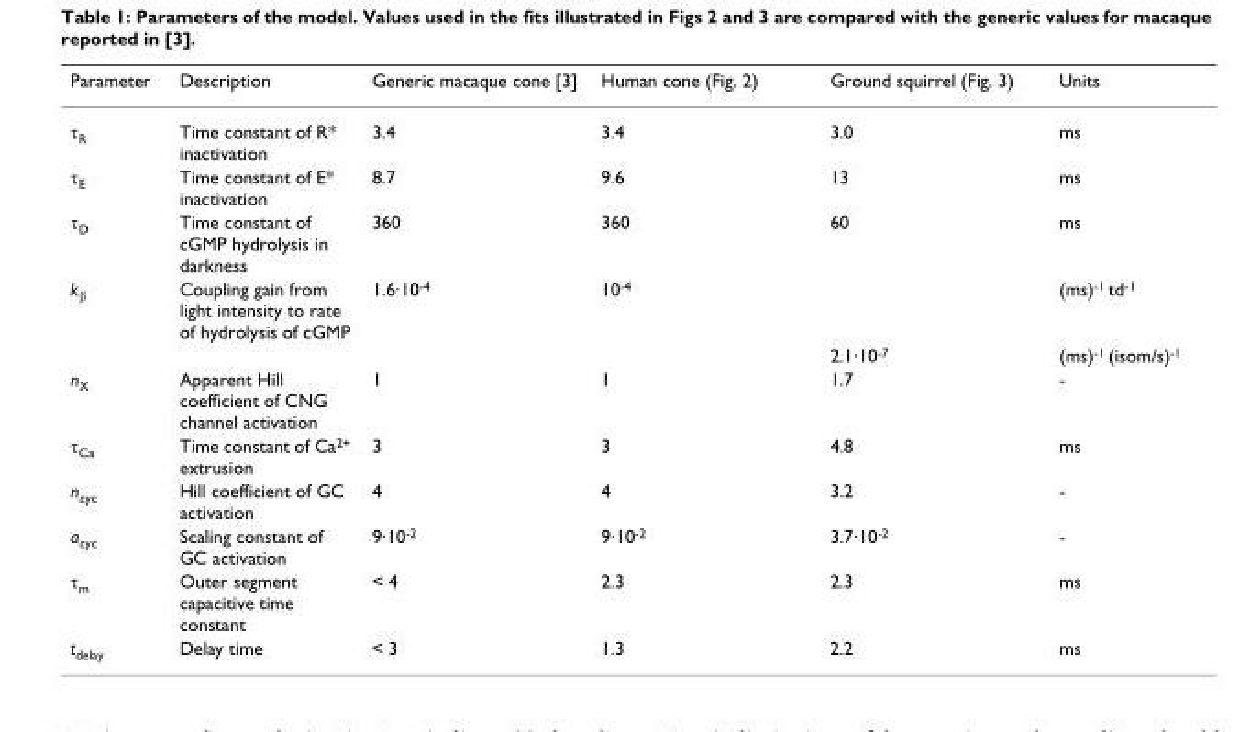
<table><thead><tr><td>Parameter</td><td>Description</td><td>Generic macaque cone [3]</td><td>Human cone (Fig. 2)</td><td>Ground squirrel (Fig. 3)</td><td>Units</td></tr></thead><tbody><tr><td>τR</td><td>Time constant of R* inactivation</td><td>3.4</td><td>3.4</td><td>3.0</td><td>ms</td></tr><tr><td>τE</td><td>Time constant of E* inactivation</td><td>8.7</td><td>9.6</td><td>13</td><td>ms</td></tr><tr><td>τD</td><td>Time constant of cGMP hydrolysis in darkness</td><td>360</td><td>360</td><td>60</td><td>ms</td></tr><tr><td rowspan="2">kβ</td><td>Coupling gain from light intensity to rate of hydrolysis of cGMP</td><td>1.6·10-4</td><td>10-4</td><td></td><td>(ms)-1 td-1</td></tr><tr><td></td><td></td><td></td><td>2.1·10-7</td><td>(ms)-1 (isom/s)-1</td></tr><tr><td>nX</td><td>Apparent Hill coefficient of CNG channel activation</td><td>1</td><td>1</td><td>1.7</td><td>-</td></tr><tr><td>τCa</td><td>Time constant of Ca2+ extrusion</td><td>3</td><td>3</td><td>4.8</td><td>ms</td></tr><tr><td>ncyc</td><td>Hill coefficient of GC activation</td><td>4</td><td>4</td><td>3.2</td><td>-</td></tr><tr><td>acyc</td><td>Scaling constant of GC activation</td><td>9·10-2</td><td>9·10-2</td><td>3.7·10-2</td><td>-</td></tr><tr><td>τm</td><td>Outer segment capacitive time constant</td><td>&lt; 4</td><td>2.3</td><td>2.3</td><td>ms</td></tr><tr><td>tdelay</td><td>Delay time</td><td>&lt; 3</td><td>1.3</td><td>2.2</td><td>ms</td></tr></tbody></table>